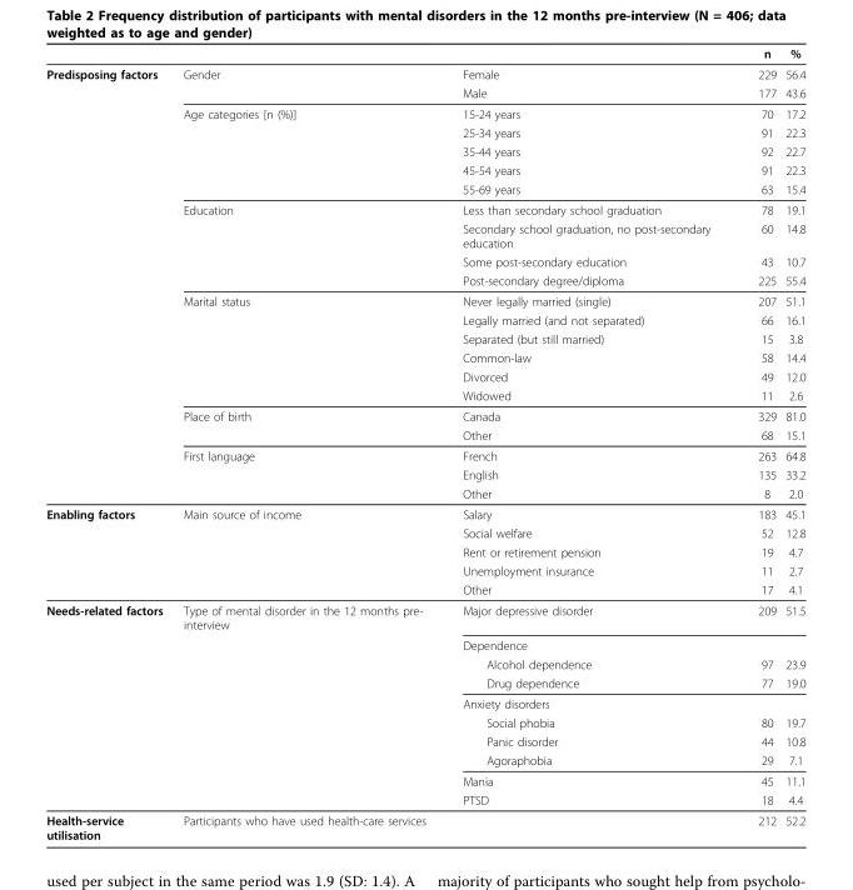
<table><thead><tr><td></td><td></td><td></td><td>n</td><td>%</td></tr></thead><tbody><tr><td rowspan="22">Predisposing factors</td><td>Gender</td><td>Female</td><td>229</td><td>56.4</td></tr><tr><td></td><td>Male</td><td>177</td><td>43.6</td></tr><tr><td>Age categories [n (%)]</td><td>15-24 years</td><td>70</td><td>17.2</td></tr><tr><td></td><td>25-34 years</td><td>91</td><td>22.3</td></tr><tr><td></td><td>35-44 years</td><td>92</td><td>22.7</td></tr><tr><td></td><td>45-54 years</td><td>91</td><td>22.3</td></tr><tr><td></td><td>55-69 years</td><td>63</td><td>15.4</td></tr><tr><td>Education</td><td>Less than secondary school graduation</td><td>78</td><td>19.1</td></tr><tr><td></td><td>Secondary school graduation, no post-secondary education</td><td>60</td><td>14.8</td></tr><tr><td></td><td>Some post-secondary education</td><td>43</td><td>10.7</td></tr><tr><td></td><td>Post-secondary degree/diploma</td><td>225</td><td>55.4</td></tr><tr><td>Marital status</td><td>Never legally married (single)</td><td>207</td><td>51.1</td></tr><tr><td></td><td>Legally married (and not separated)</td><td>66</td><td>16.1</td></tr><tr><td></td><td>Separated (but still married)</td><td>15</td><td>3.8</td></tr><tr><td></td><td>Common-law</td><td>58</td><td>14.4</td></tr><tr><td></td><td>Divorced</td><td>49</td><td>12.0</td></tr><tr><td></td><td>Widowed</td><td>11</td><td>2.6</td></tr><tr><td>Place of birth</td><td>Canada</td><td>329</td><td>81.0</td></tr><tr><td></td><td>Other</td><td>68</td><td>15.1</td></tr><tr><td>First language</td><td>French</td><td>263</td><td>64.8</td></tr><tr><td></td><td>English</td><td>135</td><td>33.2</td></tr><tr><td></td><td>Other</td><td>8</td><td>2.0</td></tr><tr><td rowspan="5">Enabling factors</td><td>Main source of income</td><td>Salary</td><td>183</td><td>45.1</td></tr><tr><td></td><td>Social welfare</td><td>52</td><td>12.8</td></tr><tr><td></td><td>Rent or retirement pension</td><td>19</td><td>4.7</td></tr><tr><td></td><td>Unemployment insurance</td><td>11</td><td>2.7</td></tr><tr><td></td><td>Other</td><td>17</td><td>4.1</td></tr><tr><td rowspan="10">Needs-related factors</td><td>Type of mental disorder in the 12 months pre- interview</td><td>Major depressive disorder</td><td>209</td><td>51.5</td></tr><tr><td></td><td>Dependence</td><td></td><td></td></tr><tr><td></td><td>Alcohol dependence</td><td>97</td><td>23.9</td></tr><tr><td></td><td>Drug dependence</td><td>77</td><td>19.0</td></tr><tr><td></td><td>Anxiety disorders</td><td></td><td></td></tr><tr><td></td><td>Social phobia</td><td>80</td><td>19.7</td></tr><tr><td></td><td>Panic disorder</td><td>44</td><td>10.8</td></tr><tr><td></td><td>Agoraphobia</td><td>29</td><td>7.1</td></tr><tr><td></td><td>Mania</td><td>45</td><td>11.1</td></tr><tr><td></td><td>PTSD</td><td>18</td><td>4.4</td></tr><tr><td>Health-service utilisation</td><td colspan="2">Participants who have used health-care services</td><td>212</td><td>52.2</td></tr></tbody></table>